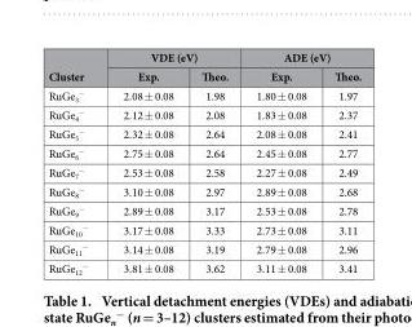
<table><thead><tr><td rowspan="2">Cluster</td><td colspan="2">VDE (eV)</td><td colspan="2">ADE (eV)</td></tr><tr><td>Exp.</td><td>Theo.</td><td>Exp.</td><td>Theo.</td></tr></thead><tbody><tr><td>RuGe<sub>3</sub> <sup>−</sup></td><td>2.08 ± 0.08</td><td>1.98</td><td>1.80 ± 0.08</td><td>1.97</td></tr><tr><td>RuGe<sub>4</sub> <sup>−</sup></td><td>2.12 ± 0.08</td><td>2.08</td><td>1.83 ± 0.08</td><td>2.37</td></tr><tr><td>RuGe<sub>5</sub> <sup>−</sup></td><td>2.32 ± 0.08</td><td>2.64</td><td>2.08 ± 0.08</td><td>2.41</td></tr><tr><td>RuGe<sub>6</sub> <sup>−</sup></td><td>2.75 ± 0.08</td><td>2.64</td><td>2.45 ± 0.08</td><td>2.77</td></tr><tr><td>RuGe<sub>7</sub> <sup>−</sup></td><td>2.53 ± 0.08</td><td>2.58</td><td>2.27 ± 0.08</td><td>2.49</td></tr><tr><td>RuGe<sub>8</sub> <sup>−</sup></td><td>3.10 ± 0.08</td><td>2.97</td><td>2.89 ± 0.08</td><td>2.68</td></tr><tr><td>RuGe<sub>9</sub> <sup>−</sup></td><td>2.89 ± 0.08</td><td>3.17</td><td>2.53 ± 0.08</td><td>2.78</td></tr><tr><td>RuGe<sub>10</sub> <sup>−</sup></td><td>3.17 ± 0.08</td><td>3.33</td><td>2.73 ± 0.08</td><td>3.11</td></tr><tr><td>RuGe<sub>11</sub> <sup>−</sup></td><td>3.14 ± 0.08</td><td>3.19</td><td>2.79 ± 0.08</td><td>2.96</td></tr><tr><td>RuGe<sub>12</sub> <sup>−</sup></td><td>3.81 ± 0.08</td><td>3.62</td><td>3.11 ± 0.08</td><td>3.41</td></tr></tbody></table>